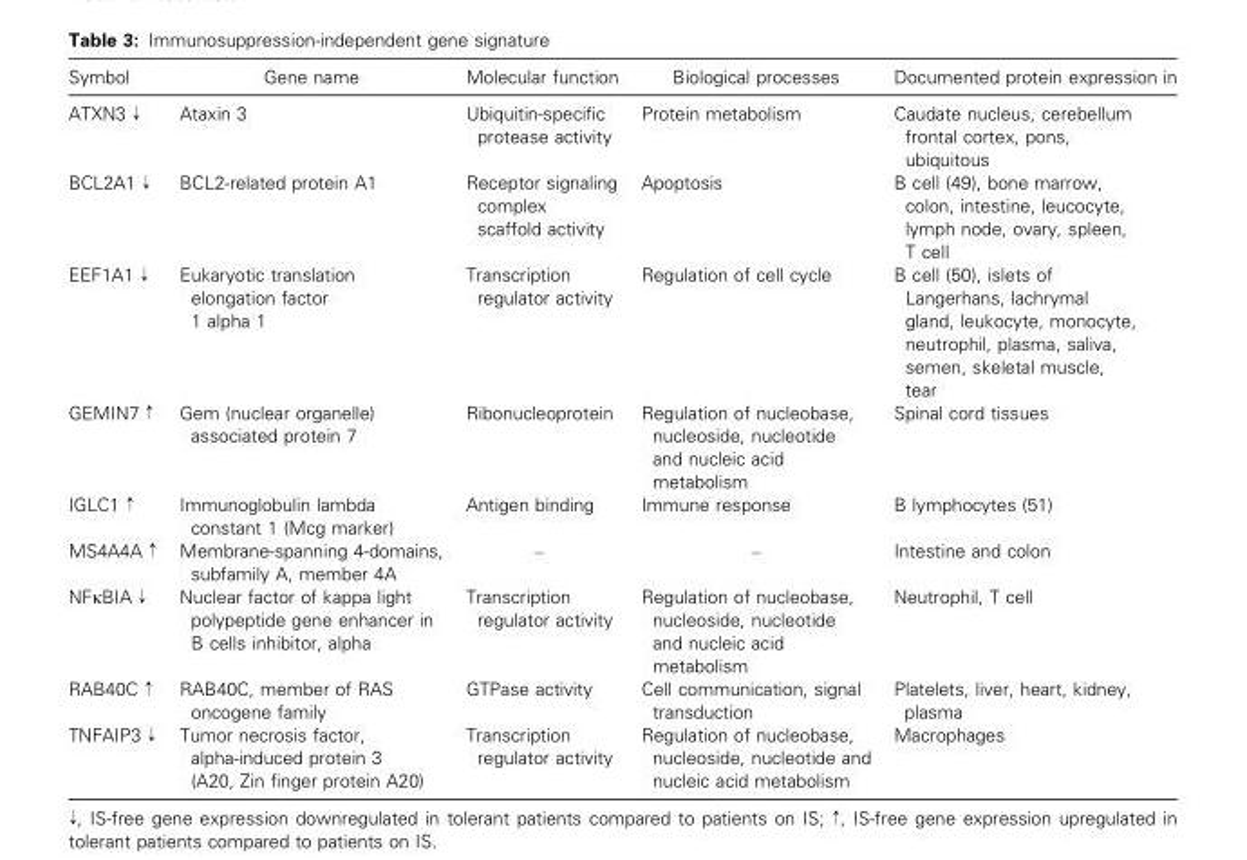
<table><thead><tr><td>Symbol</td><td>Gene name</td><td>Molecular function</td><td>Biological processes</td><td>Documented protein expression in</td></tr></thead><tbody><tr><td>ATXN3 ↓</td><td>Ataxin 3</td><td>Ubiquitin-specific protease activity</td><td>Protein metabolism</td><td>Caudate nucleus, cerebellum frontal cortex, pons, ubiquitous</td></tr><tr><td>BCL2A1 ↓</td><td>BCL2-related protein A1</td><td>Receptor signaling complex scaffold activity</td><td>Apoptosis</td><td>B cell (49), bone marrow, colon, intestine, leucocyte, lymph node, ovary, spleen, T cell</td></tr><tr><td>EEF1A1 ↓</td><td>Eukaryotic translation elongation factor 1 alpha 1</td><td>Transcription regulator activity</td><td>Regulation of cell cycle</td><td>B cell (50), islets of Langerhans, lachrymal gland, leukocyte, monocyte, neutrophil, plasma, saliva, semen, skeletal muscle, tear</td></tr><tr><td>GEMIN7 ↑</td><td>Gem (nuclear organelle) associated protein 7</td><td>Ribonucleoprotein</td><td>Regulation of nucleobase, nucleoside, nucleotide and nucleic acid metabolism</td><td>Spinal cord tissues</td></tr><tr><td>IGLC1 ↑</td><td>Immunoglobulin lambda constant 1 (Mcg marker)</td><td>Antigen binding</td><td>Immune response</td><td>B lymphocytes (51)</td></tr><tr><td>MS4A4A ↑</td><td>Membrane-spanning 4-domains, subfamily A, member 4A</td><td>–</td><td>–</td><td>Intestine and colon</td></tr><tr><td>NFκBIA ↓</td><td>Nuclear factor of kappa light polypeptide gene enhancer in B cells inhibitor, alpha</td><td>Transcription regulator activity</td><td>Regulation of nucleobase, nucleoside, nucleotide and nucleic acid metabolism</td><td>Neutrophil, T cell</td></tr><tr><td>RAB40C ↑</td><td>RAB40C, member of RAS oncogene family</td><td>GTPase activity</td><td>Cell communication, signal transduction</td><td>Platelets, liver, heart, kidney, plasma</td></tr><tr><td>TNFAIP3 ↓</td><td>Tumor necrosis factor, alpha-induced protein 3 (A20, Zin finger protein A20)</td><td>Transcription regulator activity</td><td>Regulation of nucleobase, nucleoside, nucleotide and nucleic acid metabolism</td><td>Macrophages</td></tr></tbody></table>